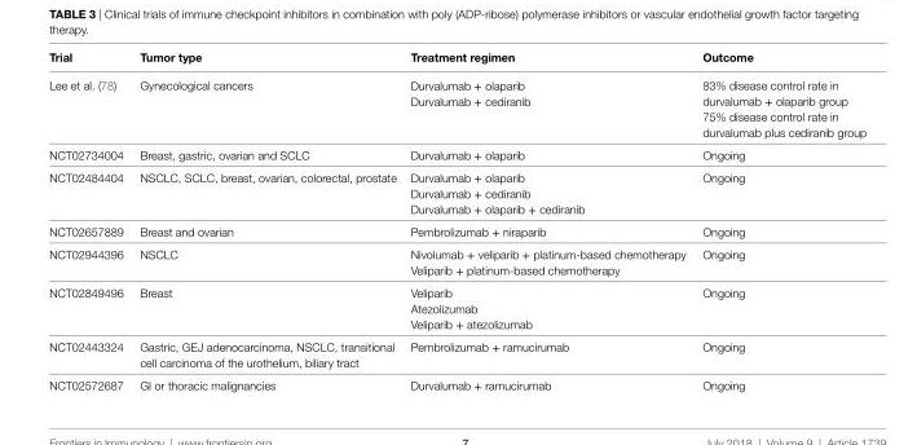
<table><thead><tr><td>Trial</td><td>Tumor type</td><td>Treatment regimen</td><td>Outcome</td></tr></thead><tbody><tr><td>Lee et al. (78)</td><td>Gynecological cancers</td><td>Durvalumab + olaparib Durvalumab + cediranib</td><td>83% disease control rate in durvalumab + olaparib group 75% disease control rate in durvalumab plus cediranib group</td></tr><tr><td>NCT02734004</td><td>Breast, gastric, ovarian and SCLC</td><td>Durvalumab + olaparib</td><td>Ongoing</td></tr><tr><td>NCT02484404</td><td>NSCLC, SCLC, breast, ovarian, colorectal, prostate</td><td>Durvalumab + olaparib Durvalumab + cediranib Durvalumab + olaparib + cediranib</td><td>Ongoing</td></tr><tr><td>NCT02657889</td><td>Breast and ovarian</td><td>Pembrolizumab + niraparib</td><td>Ongoing</td></tr><tr><td>NCT02944396</td><td>NSCLC</td><td>Nivolumab + veliparib + platinum-based chemotherapy Veliparib + platinum-based chemotherapy</td><td>Ongoing</td></tr><tr><td>NCT02849496</td><td>Breast</td><td>Veliparib Atezolizumab Veliparib + atezolizumab</td><td>Ongoing</td></tr><tr><td>NCT02443324</td><td>Gastric, GEJ adenocarcinoma, NSCLC, transitional cell carcinoma of the urothelium, biliary tract</td><td>Pembrolizumab + ramucirumab</td><td>Ongoing</td></tr><tr><td>NCT02572687</td><td>GI or thoracic malignancies</td><td>Durvalumab + ramucirumab</td><td>Ongoing</td></tr></tbody></table>